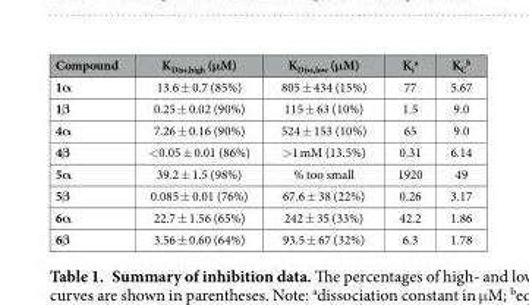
<table><thead><tr><td>Compound</td><td>K<sub>Diss,high</sub> (μM)</td><td>K<sub>Diss,low</sub> (μM)</td><td>K<sub>i</sub> <sup>a</sup></td><td>K<sub>C</sub> <sup>b</sup></td></tr></thead><tbody><tr><td>1α</td><td>13.6 ± 0.7 (85%)</td><td>805 ± 434 (15%)</td><td>77</td><td>5.67</td></tr><tr><td>1β</td><td>0.25 ± 0.02 (90%)</td><td>115 ± 63 (10%)</td><td>1.5</td><td>9.0</td></tr><tr><td>4α</td><td>7.26 ± 0.16 (90%)</td><td>524 ± 153 (10%)</td><td>65</td><td>9.0</td></tr><tr><td>4β</td><td>&lt; 0.05 ± 0.01 (86%)</td><td>&gt; 1 mM (13.5%)</td><td>0.31</td><td>6.14</td></tr><tr><td>5α</td><td>39.2 ± 1.5 (98%)</td><td>% too small</td><td>1920</td><td>49</td></tr><tr><td>5β</td><td>0.085 ± 0.01 (76%)</td><td>67.6 ± 38 (22%)</td><td>0.26</td><td>3.17</td></tr><tr><td>6α</td><td>22.7 ± 1.56 (65%)</td><td>242 ± 35 (33%)</td><td>42.2</td><td>1.86</td></tr><tr><td>6β</td><td>3.56 ± 0.60 (64%)</td><td>93.5 ± 67 (32%)</td><td>6.3</td><td>1.78</td></tr></tbody></table>